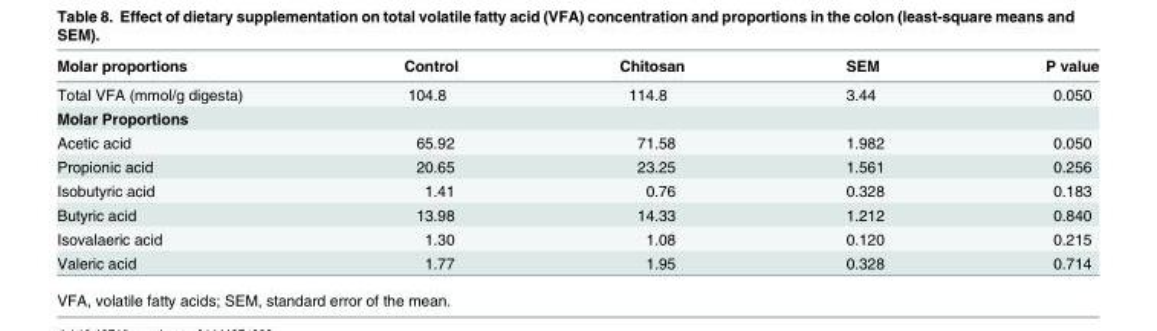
<table><thead><tr><td>Molar proportions</td><td>Control</td><td>Chitosan</td><td>SEM</td><td>P value</td></tr></thead><tbody><tr><td>Total VFA (mmol/g digesta)</td><td>104.8</td><td>114.8</td><td>3.44</td><td>0.050</td></tr><tr><td colspan="5">Molar Proportions</td></tr><tr><td>Acetic acid</td><td>65.92</td><td>71.58</td><td>1.982</td><td>0.050</td></tr><tr><td>Propionic acid</td><td>20.65</td><td>23.25</td><td>1.561</td><td>0.256</td></tr><tr><td>Isobutyric acid</td><td>1.41</td><td>0.76</td><td>0.328</td><td>0.183</td></tr><tr><td>Butyric acid</td><td>13.98</td><td>14.33</td><td>1.212</td><td>0.840</td></tr><tr><td>Isovalaeric acid</td><td>1.30</td><td>1.08</td><td>0.120</td><td>0.215</td></tr><tr><td>Valeric acid</td><td>1.77</td><td>1.95</td><td>0.328</td><td>0.714</td></tr></tbody></table>